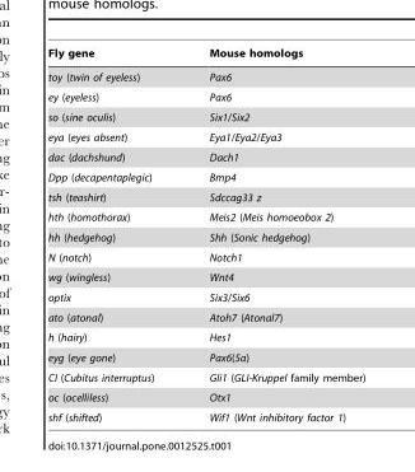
<table><thead><tr><td>Fly gene</td><td>Mouse homologs</td></tr></thead><tbody><tr><td>toy (twin of eyeless)</td><td>Pax6</td></tr><tr><td>ey (eyeless)</td><td>Pax6</td></tr><tr><td>so (sine oculis)</td><td>Six1/Six2</td></tr><tr><td>eya (eyes absent)</td><td>Eya1/Eya2/Eya3</td></tr><tr><td>dac (dachshund)</td><td>Dach1</td></tr><tr><td>Dpp (decapentaplegic)</td><td>Bmp4</td></tr><tr><td>tsh (teashirt)</td><td>Sdccag33 z</td></tr><tr><td>hth (homothorax)</td><td>Meis2 (Meis homoeobox 2)</td></tr><tr><td>hh (hedgehog)</td><td>Shh (Sonic hedgehog)</td></tr><tr><td>N (notch)</td><td>Notch1</td></tr><tr><td>wg (wingless)</td><td>Wnt4</td></tr><tr><td>optix</td><td>Six3/Six6</td></tr><tr><td>ato (atonal)</td><td>Atoh7 (Atonal7)</td></tr><tr><td>h (hairy)</td><td>Hes1</td></tr><tr><td>eyg (eye gone)</td><td>Pax6(5a)</td></tr><tr><td>CI (Cubitus interruptus)</td><td>Gli1 (GLI-Kruppel family member)</td></tr><tr><td>oc (ocelliless)</td><td>Otx1</td></tr><tr><td>shf (shifted)</td><td>Wif1 (Wnt inhibitory factor 1)</td></tr></tbody></table>